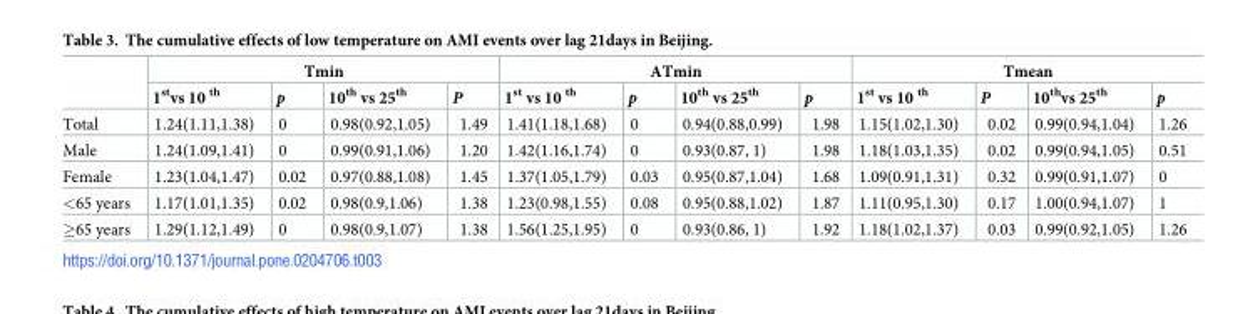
<table><thead><tr><td rowspan="2"></td><td colspan="4">Tmin</td><td colspan="4">ATmin</td><td colspan="4">Tmean</td></tr><tr><td>1<sup>st</sup>vs 10 <sup>th</sup></td><td>p</td><td>10<sup>th</sup> vs 25<sup>th</sup></td><td>P</td><td>1<sup>st</sup> vs 10 <sup>th</sup></td><td>p</td><td>10<sup>th</sup> vs 25<sup>th</sup></td><td>p</td><td>1<sup>st</sup> vs 10 <sup>th</sup></td><td>P</td><td>10<sup>th</sup>vs 25<sup>th</sup></td><td>p</td></tr></thead><tbody><tr><td>Total</td><td>1.24(1.11,1.38)</td><td>0</td><td>0.98(0.92,1.05)</td><td>1.49</td><td>1.41(1.18,1.68)</td><td>0</td><td>0.94(0.88,0.99)</td><td>1.98</td><td>1.15(1.02,1.30)</td><td>0.02</td><td>0.99(0.94,1.04)</td><td>1.26</td></tr><tr><td>Male</td><td>1.24(1.09,1.41)</td><td>0</td><td>0.99(0.91,1.06)</td><td>1.20</td><td>1.42(1.16,1.74)</td><td>0</td><td>0.93(0.87, 1)</td><td>1.98</td><td>1.18(1.03,1.35)</td><td>0.02</td><td>0.99(0.94,1.05)</td><td>0.51</td></tr><tr><td>Female</td><td>1.23(1.04,1.47)</td><td>0.02</td><td>0.97(0.88,1.08)</td><td>1.45</td><td>1.37(1.05,1.79)</td><td>0.03</td><td>0.95(0.87,1.04)</td><td>1.68</td><td>1.09(0.91,1.31)</td><td>0.32</td><td>0.99(0.91,1.07)</td><td>0</td></tr><tr><td>&lt;65 years</td><td>1.17(1.01,1.35)</td><td>0.02</td><td>0.98(0.9,1.06)</td><td>1.38</td><td>1.23(0.98,1.55)</td><td>0.08</td><td>0.95(0.88,1.02)</td><td>1.87</td><td>1.11(0.95,1.30)</td><td>0.17</td><td>1.00(0.94,1.07)</td><td>1</td></tr><tr><td>≥65 years</td><td>1.29(1.12,1.49)</td><td>0</td><td>0.98(0.9,1.07)</td><td>1.38</td><td>1.56(1.25,1.95)</td><td>0</td><td>0.93(0.86, 1)</td><td>1.92</td><td>1.18(1.02,1.37)</td><td>0.03</td><td>0.99(0.92,1.05)</td><td>1.26</td></tr></tbody></table>